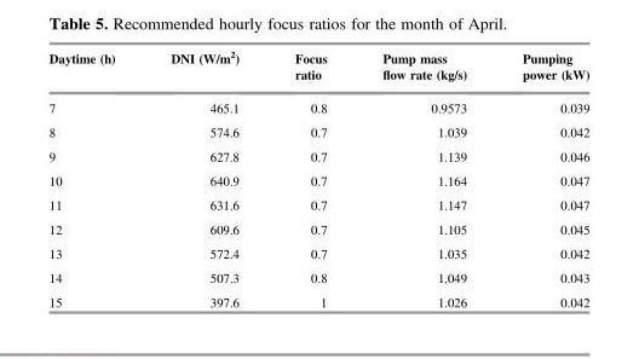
<table><thead><tr><td>Daytime (h)</td><td>DNI (W/m<sup>2</sup>)</td><td>Focus ratio</td><td>Pump mass flow rate (kg/s)</td><td>Pumping power (kW)</td></tr></thead><tbody><tr><td>7</td><td>465.1</td><td>0.8</td><td>0.9573</td><td>0.039</td></tr><tr><td>8</td><td>574.6</td><td>0.7</td><td>1.039</td><td>0.042</td></tr><tr><td>9</td><td>627.8</td><td>0.7</td><td>1.139</td><td>0.046</td></tr><tr><td>10</td><td>640.9</td><td>0.7</td><td>1.164</td><td>0.047</td></tr><tr><td>11</td><td>631.6</td><td>0.7</td><td>1.147</td><td>0.047</td></tr><tr><td>12</td><td>609.6</td><td>0.7</td><td>1.105</td><td>0.045</td></tr><tr><td>13</td><td>572.4</td><td>0.7</td><td>1.035</td><td>0.042</td></tr><tr><td>14</td><td>507.3</td><td>0.8</td><td>1.049</td><td>0.043</td></tr><tr><td>15</td><td>397.6</td><td>1</td><td>1.026</td><td>0.042</td></tr></tbody></table>